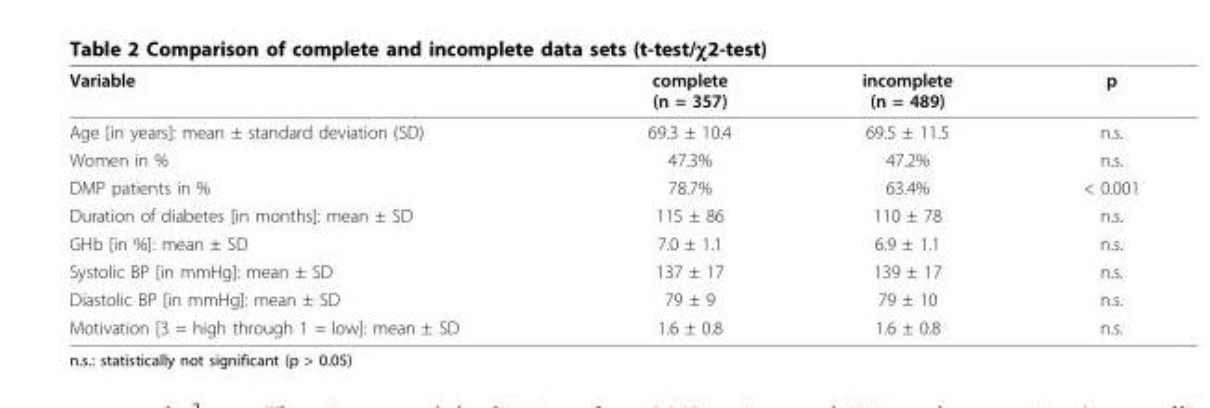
<table><thead><tr><td>Variable</td><td>complete (n = 357)</td><td>incomplete (n = 489)</td><td>p</td></tr></thead><tbody><tr><td>Age [in years]: mean ± standard deviation (SD)</td><td>69.3 ± 10.4</td><td>69.5 ± 11.5</td><td>n.s.</td></tr><tr><td>Women in %</td><td>47.3%</td><td>47.2%</td><td>n.s.</td></tr><tr><td>DMP patients in %</td><td>78.7%</td><td>63.4%</td><td>&lt; 0.001</td></tr><tr><td>Duration of diabetes [in months]: mean ± SD</td><td>115 ± 86</td><td>110 ± 78</td><td>n.s.</td></tr><tr><td>GHb [in %]: mean ± SD</td><td>7.0 ± 1.1</td><td>6.9 ± 1.1</td><td>n.s.</td></tr><tr><td>Systolic BP [in mmHg]: mean ± SD</td><td>137 ± 17</td><td>139 ± 17</td><td>n.s.</td></tr><tr><td>Diastolic BP [in mmHg]: mean ± SD</td><td>79 ± 9</td><td>79 ± 10</td><td>n.s.</td></tr><tr><td>Motivation [3 = high through 1 = low]: mean ± SD</td><td>1.6 ± 0.8</td><td>1.6 ± 0.8</td><td>n.s.</td></tr></tbody></table>